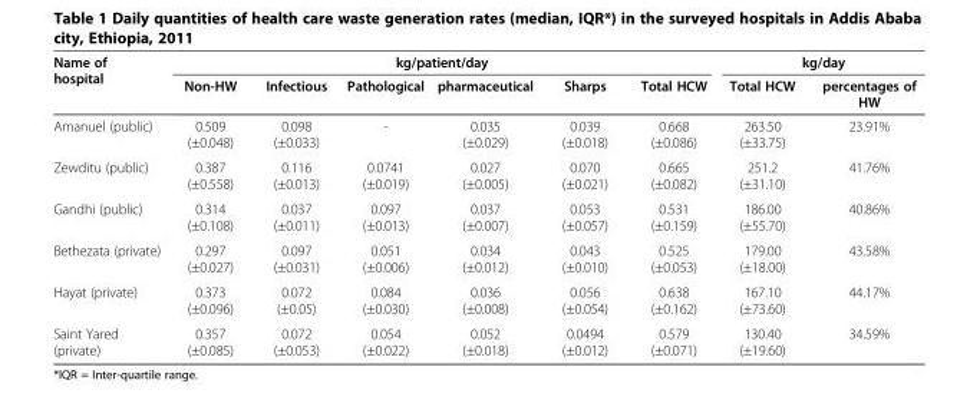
<table><thead><tr><td rowspan="2">Name of hospital</td><td colspan="6">kg/patient/day</td><td colspan="2">kg/day</td></tr><tr><td>Non-HW</td><td>Infectious</td><td>Pathological</td><td>pharmaceutical</td><td>Sharps</td><td>Total HCW</td><td>Total HCW</td><td>percentages of HW</td></tr></thead><tbody><tr><td>Amanuel (public)</td><td>0.509 (±0.048)</td><td>0.098 (±0.033)</td><td>-</td><td>0.035 (±0.029)</td><td>0.039 (±0.018)</td><td>0.668 (±0.086)</td><td>263.50 (±33.75)</td><td>23.91%</td></tr><tr><td>Zewditu (public)</td><td>0.387 (±0.558)</td><td>0.116 (±0.013)</td><td>0.0741 (±0.019)</td><td>0.027 (±0.005)</td><td>0.070 (±0.021)</td><td>0.665 (±0.082)</td><td>251.2 (±31.10)</td><td>41.76%</td></tr><tr><td>Gandhi (public)</td><td>0.314 (±0.108)</td><td>0.037 (±0.011)</td><td>0.097 (±0.013)</td><td>0.037 (±0.007)</td><td>0.053 (±0.057)</td><td>0.531 (±0.159)</td><td>186.00 (±55.70)</td><td>40.86%</td></tr><tr><td>Bethezata (private)</td><td>0.297 (±0.027)</td><td>0.097 (±0.031)</td><td>0.051 (±0.006)</td><td>0.034 (±0.012)</td><td>0.043 (±0.010)</td><td>0.525 (±0.053)</td><td>179.00 (±18.00)</td><td>43.58%</td></tr><tr><td>Hayat (private)</td><td>0.373 (±0.096)</td><td>0.072 (±0.05)</td><td>0.084 (±0.030)</td><td>0.036 (±0.008)</td><td>0.056 (±0.054)</td><td>0.638 (±0.162)</td><td>167.10 (±73.60)</td><td>44.17%</td></tr><tr><td>Saint Yared (private)</td><td>0.357 (±0.085)</td><td>0.072 (±0.053)</td><td>0.054 (±0.022)</td><td>0.052 (±0.018)</td><td>0.0494 (±0.012)</td><td>0.579 (±0.071)</td><td>130.40 (±19.60)</td><td>34.59%</td></tr></tbody></table>